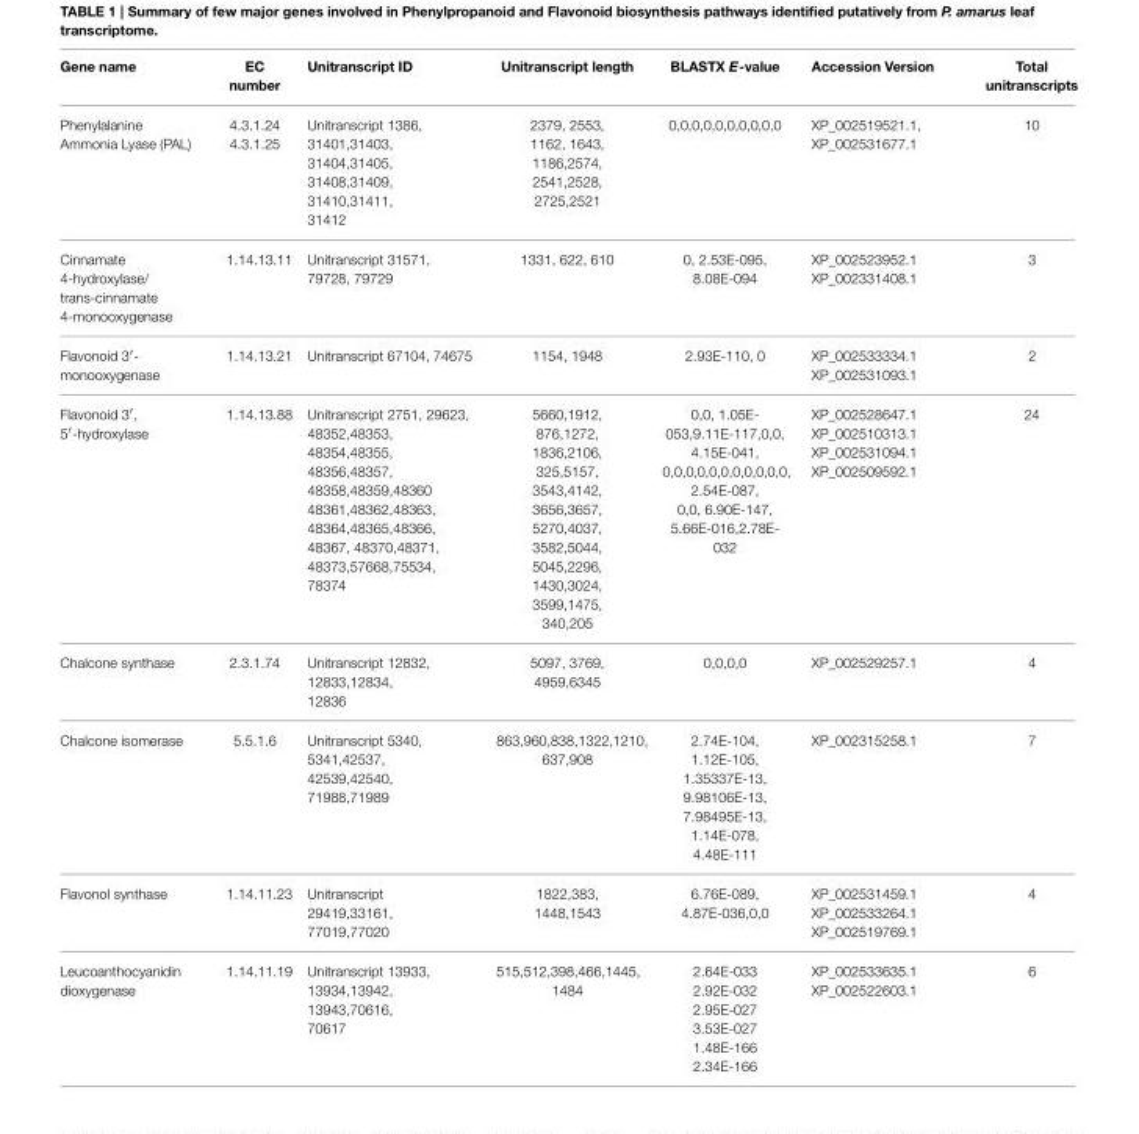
<table><thead><tr><td>Gene name</td><td>EC number</td><td>Unitranscript ID</td><td>Unitranscript length</td><td>BLASTX E-value</td><td>Accession Version</td><td>Total unitranscripts</td></tr></thead><tbody><tr><td>Phenylalanine Ammonia Lyase (PAL)</td><td>4.3.1.24 4.3.1.25</td><td>Unitranscript 1386, 31401,31403, 31404,31405, 31408,31409, 31410,31411, 31412</td><td>2379, 2553, 1162, 1643, 1186,2574, 2541,2528, 2725,2521</td><td>0,0,0,0,0,0,0,0,0,0</td><td>XP_002519521.1, XP_002531677.1</td><td>10</td></tr><tr><td>Cinnamate 4-hydroxylase/ trans-cinnamate 4-monooxygenase</td><td>1.14.13.11</td><td>Unitranscript 31571, 79728, 79729</td><td>1331, 622, 610</td><td>0, 2.53E-095, 8.08E-094</td><td>XP_002523952.1 XP_002331408.1</td><td>3</td></tr><tr><td>Flavonoid 3′- monooxygenase</td><td>1.14.13.21</td><td>Unitranscript 67104, 74675</td><td>1154, 1948</td><td>2.93E-110, 0</td><td>XP_002533334.1 XP_002531093.1</td><td>2</td></tr><tr><td>Flavonoid 3′, 5′-hydroxylase</td><td>1.14.13.88</td><td>Unitranscript 2751, 29623, 48352,48353, 48354,48355, 48356,48357, 48358,48359,48360 48361,48362,48363, 48364,48365,48366, 48367, 48370,48371, 48373,57668,75534, 78374</td><td>5660,1912, 876,1272, 1836,2106, 325,5157, 3543,4142, 3656,3657, 5270,4037, 3582,5044, 5045,2296, 1430,3024, 3599,1475, 340,205</td><td>0,0, 1.05E- 053,9.11E-117,0,0, 4.15E-041, 0,0,0,0,0,0,0,0,0,0,0, 2.54E-087, 0,0, 6.90E-147, 5.66E-016,2.78E- 032</td><td>XP_002528647.1 XP_002510313.1 XP_002531094.1 XP_002509592.1</td><td>24</td></tr><tr><td>Chalcone synthase</td><td>2.3.1.74</td><td>Unitranscript 12832, 12833,12834, 12836</td><td>5097, 3769, 4959,6345</td><td>0,0,0,0</td><td>XP_002529257.1</td><td>4</td></tr><tr><td>Chalcone isomerase</td><td>5.5.1.6</td><td>Unitranscript 5340, 5341,42537, 42539,42540, 71988,71989</td><td>863,960,838,1322,1210, 637,908</td><td>2.74E-104, 1.12E-105, 1.35337E-13, 9.98106E-13, 7.98495E-13, 1.14E-078, 4.48E-111</td><td>XP_002315258.1</td><td>7</td></tr><tr><td>Flavonol synthase</td><td>1.14.11.23</td><td>Unitranscript 29419,33161, 77019,77020</td><td>1822,383, 1448,1543</td><td>6.76E-089, 4.87E-036,0,0</td><td>XP_002531459.1 XP_002533264.1 XP_002519769.1</td><td>4</td></tr><tr><td>Leucoanthocyanidin dioxygenase</td><td>1.14.11.19</td><td>Unitranscript 13933, 13934,13942, 13943,70616, 70617</td><td>515,512,398,466,1445, 1484</td><td>2.64E-033 2.92E-032 2.95E-027 3.53E-027 1.48E-166 2.34E-166</td><td>XP_002533635.1 XP_002522603.1</td><td>6</td></tr></tbody></table>